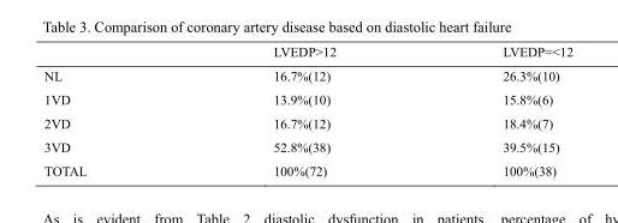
<table><thead><tr><td></td><td>LVEDP&gt;12</td><td>LVEDP=&lt;12</td></tr></thead><tbody><tr><td>NL</td><td>16.7%(12)</td><td>26.3%(10)</td></tr><tr><td>1VD</td><td>13.9%(10)</td><td>15.8%(6)</td></tr><tr><td>2VD</td><td>16.7%(12)</td><td>18.4%(7)</td></tr><tr><td>3VD</td><td>52.8%(38)</td><td>39.5%(15)</td></tr><tr><td>TOTAL</td><td>100%(72)</td><td>100%(38)</td></tr></tbody></table>